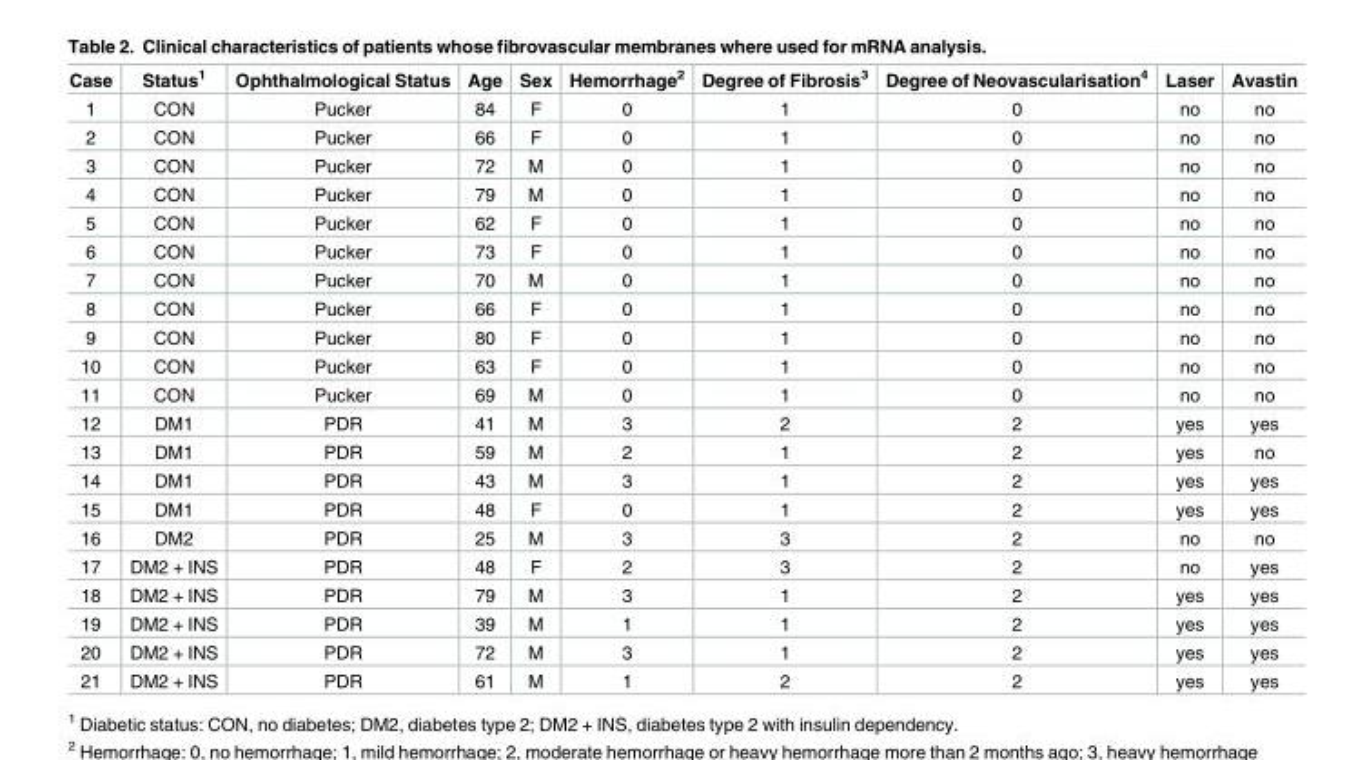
<table><thead><tr><td>Case</td><td>Status<sup>1</sup></td><td>Ophthalmological Status</td><td>Age</td><td>Sex</td><td>Hemorrhage<sup>2</sup></td><td>Degree of Fibrosis<sup>3</sup></td><td>Degree of Neovascularisation<sup>4</sup></td><td>Laser</td><td>Avastin</td></tr></thead><tbody><tr><td>1</td><td>CON</td><td>Pucker</td><td>84</td><td>F</td><td>0</td><td>1</td><td>0</td><td>no</td><td>no</td></tr><tr><td>2</td><td>CON</td><td>Pucker</td><td>66</td><td>F</td><td>0</td><td>1</td><td>0</td><td>no</td><td>no</td></tr><tr><td>3</td><td>CON</td><td>Pucker</td><td>72</td><td>M</td><td>0</td><td>1</td><td>0</td><td>no</td><td>no</td></tr><tr><td>4</td><td>CON</td><td>Pucker</td><td>79</td><td>M</td><td>0</td><td>1</td><td>0</td><td>no</td><td>no</td></tr><tr><td>5</td><td>CON</td><td>Pucker</td><td>62</td><td>F</td><td>0</td><td>1</td><td>0</td><td>no</td><td>no</td></tr><tr><td>6</td><td>CON</td><td>Pucker</td><td>73</td><td>F</td><td>0</td><td>1</td><td>0</td><td>no</td><td>no</td></tr><tr><td>7</td><td>CON</td><td>Pucker</td><td>70</td><td>M</td><td>0</td><td>1</td><td>0</td><td>no</td><td>no</td></tr><tr><td>8</td><td>CON</td><td>Pucker</td><td>66</td><td>F</td><td>0</td><td>1</td><td>0</td><td>no</td><td>no</td></tr><tr><td>9</td><td>CON</td><td>Pucker</td><td>80</td><td>F</td><td>0</td><td>1</td><td>0</td><td>no</td><td>no</td></tr><tr><td>10</td><td>CON</td><td>Pucker</td><td>63</td><td>F</td><td>0</td><td>1</td><td>0</td><td>no</td><td>no</td></tr><tr><td>11</td><td>CON</td><td>Pucker</td><td>69</td><td>M</td><td>0</td><td>1</td><td>0</td><td>no</td><td>no</td></tr><tr><td>12</td><td>DM1</td><td>PDR</td><td>41</td><td>M</td><td>3</td><td>2</td><td>2</td><td>yes</td><td>yes</td></tr><tr><td>13</td><td>DM1</td><td>PDR</td><td>59</td><td>M</td><td>2</td><td>1</td><td>2</td><td>yes</td><td>no</td></tr><tr><td>14</td><td>DM1</td><td>PDR</td><td>43</td><td>M</td><td>3</td><td>1</td><td>2</td><td>yes</td><td>yes</td></tr><tr><td>15</td><td>DM1</td><td>PDR</td><td>48</td><td>F</td><td>0</td><td>1</td><td>2</td><td>yes</td><td>yes</td></tr><tr><td>16</td><td>DM2</td><td>PDR</td><td>25</td><td>M</td><td>3</td><td>3</td><td>2</td><td>no</td><td>no</td></tr><tr><td>17</td><td>DM2 + INS</td><td>PDR</td><td>48</td><td>F</td><td>2</td><td>3</td><td>2</td><td>no</td><td>yes</td></tr><tr><td>18</td><td>DM2 + INS</td><td>PDR</td><td>79</td><td>M</td><td>3</td><td>1</td><td>2</td><td>yes</td><td>yes</td></tr><tr><td>19</td><td>DM2 + INS</td><td>PDR</td><td>39</td><td>M</td><td>1</td><td>1</td><td>2</td><td>yes</td><td>yes</td></tr><tr><td>20</td><td>DM2 + INS</td><td>PDR</td><td>72</td><td>M</td><td>3</td><td>1</td><td>2</td><td>yes</td><td>yes</td></tr><tr><td>21</td><td>DM2 + INS</td><td>PDR</td><td>61</td><td>M</td><td>1</td><td>2</td><td>2</td><td>yes</td><td>yes</td></tr></tbody></table>